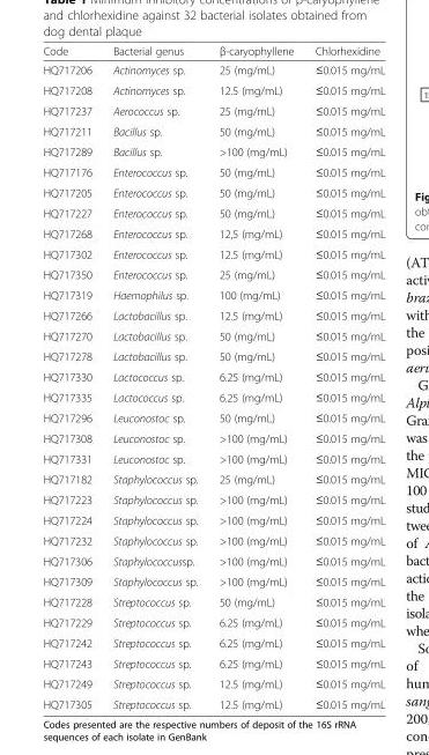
<table><thead><tr><td>Code</td><td>Bacterial genus</td><td>β-caryophyllene</td><td>Chlorhexidine</td></tr></thead><tbody><tr><td>HQ717206</td><td>Actinomyces sp.</td><td>25 (mg/mL)</td><td>≤0.015 mg/mL</td></tr><tr><td>HQ717208</td><td>Actinomyces sp.</td><td>12.5 (mg/mL)</td><td>≤0.015 mg/mL</td></tr><tr><td>HQ717237</td><td>Aerococcus sp.</td><td>25 (mg/mL)</td><td>≤0.015 mg/mL</td></tr><tr><td>HQ717211</td><td>Bacillus sp.</td><td>50 (mg/mL)</td><td>≤0.015 mg/mL</td></tr><tr><td>HQ717289</td><td>Bacillus sp.</td><td>&gt;100 (mg/mL)</td><td>≤0.015 mg/mL</td></tr><tr><td>HQ717176</td><td>Enterococcus sp.</td><td>50 (mg/mL)</td><td>≤0.015 mg/mL</td></tr><tr><td>HQ717205</td><td>Enterococcus sp.</td><td>50 (mg/mL)</td><td>≤0.015 mg/mL</td></tr><tr><td>HQ717227</td><td>Enterococcus sp.</td><td>50 (mg/mL)</td><td>≤0.015 mg/mL</td></tr><tr><td>HQ717268</td><td>Enterococcus sp.</td><td>12,5 (mg/mL)</td><td>≤0.015 mg/mL</td></tr><tr><td>HQ717302</td><td>Enterococcus sp.</td><td>12.5 (mg/mL)</td><td>≤0.015 mg/mL</td></tr><tr><td>HQ717350</td><td>Enterococcus sp.</td><td>25 (mg/mL)</td><td>≤0.015 mg/mL</td></tr><tr><td>HQ717319</td><td>Haemophilus sp.</td><td>100 (mg/mL)</td><td>≤0.015 mg/mL</td></tr><tr><td>HQ717266</td><td>Lactobacillus sp.</td><td>12.5 (mg/mL)</td><td>≤0.015 mg/mL</td></tr><tr><td>HQ717270</td><td>Lactobacillus sp.</td><td>50 (mg/mL)</td><td>≤0.015 mg/mL</td></tr><tr><td>HQ717278</td><td>Lactobacillus sp.</td><td>50 (mg/mL)</td><td>≤0.015 mg/mL</td></tr><tr><td>HQ717330</td><td>Lactococcus sp.</td><td>6.25 (mg/mL)</td><td>≤0.015 mg/mL</td></tr><tr><td>HQ717335</td><td>Lactococcus sp.</td><td>6.25 (mg/mL)</td><td>≤0.015 mg/mL</td></tr><tr><td>HQ717296</td><td>Leuconostoc sp.</td><td>50 (mg/mL)</td><td>≤0.015 mg/mL</td></tr><tr><td>HQ717308</td><td>Leuconostoc sp.</td><td>&gt;100 (mg/mL)</td><td>≤0.015 mg/mL</td></tr><tr><td>HQ717331</td><td>Leuconostoc sp.</td><td>&gt;100 (mg/mL)</td><td>≤0.015 mg/mL</td></tr><tr><td>HQ717182</td><td>Staphylococcus sp.</td><td>25 (mg/mL)</td><td>≤0.015 mg/mL</td></tr><tr><td>HQ717223</td><td>Staphylococcus sp.</td><td>&gt;100 (mg/mL)</td><td>≤0.015 mg/mL</td></tr><tr><td>HQ717224</td><td>Staphylococcus sp.</td><td>&gt;100 (mg/mL)</td><td>≤0.015 mg/mL</td></tr><tr><td>HQ717232</td><td>Staphylococcus sp.</td><td>&gt;100 (mg/mL)</td><td>≤0.015 mg/mL</td></tr><tr><td>HQ717306</td><td>Staphylococcussp.</td><td>&gt;100 (mg/mL)</td><td>≤0.015 mg/mL</td></tr><tr><td>HQ717309</td><td>Staphylococcus sp.</td><td>&gt;100 (mg/mL)</td><td>≤0.015 mg/mL</td></tr><tr><td>HQ717228</td><td>Streptococcus sp.</td><td>50 (mg/mL)</td><td>≤0.015 mg/mL</td></tr><tr><td>HQ717229</td><td>Streptococcus sp.</td><td>6.25 (mg/mL)</td><td>≤0.015 mg/mL</td></tr><tr><td>HQ717242</td><td>Streptococcus sp.</td><td>6.25 (mg/mL)</td><td>≤0.015 mg/mL</td></tr><tr><td>HQ717243</td><td>Streptococcus sp.</td><td>6.25 (mg/mL)</td><td>≤0.015 mg/mL</td></tr><tr><td>HQ717249</td><td>Streptococcus sp.</td><td>12.5 (mg/mL)</td><td>≤0.015 mg/mL</td></tr><tr><td>HQ717305</td><td>Streptococcus sp.</td><td>12.5 (mg/mL)</td><td>≤0.015 mg/mL</td></tr></tbody></table>